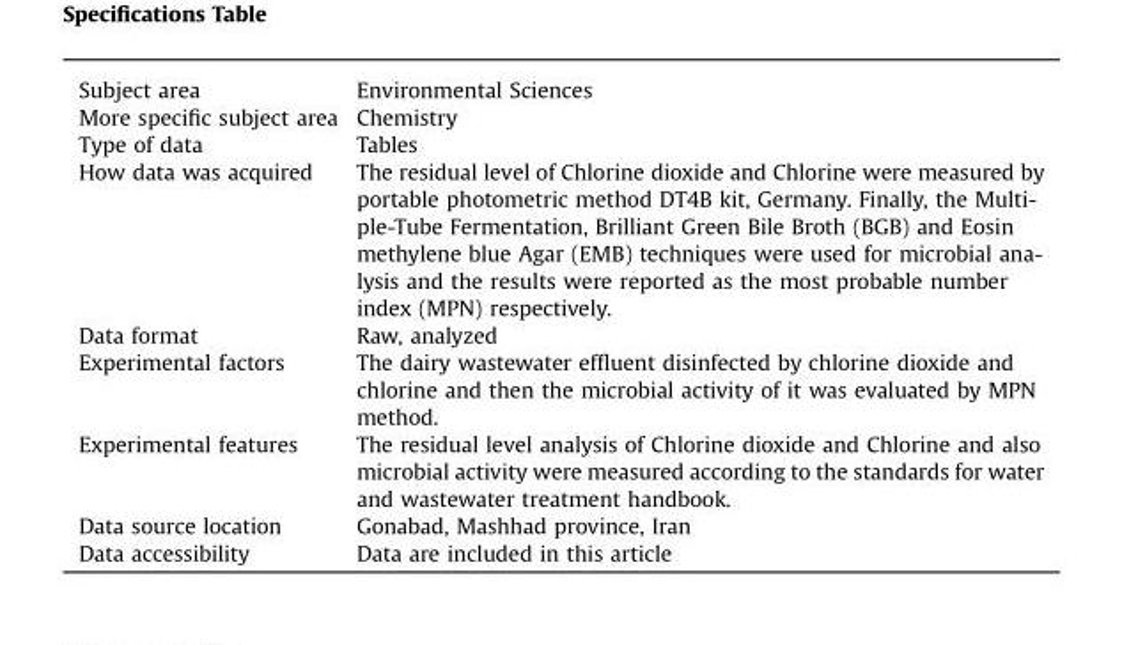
<table><tbody><tr><td>Subject area</td><td>Environmental Sciences</td></tr><tr><td>More specific subject area</td><td>Chemistry</td></tr><tr><td>Type of data</td><td>Tables</td></tr><tr><td>How data was acquired</td><td>The residual level of Chlorine dioxide and Chlorine were measured by portable photometric method DT4B kit, Germany. Finally, the Multi- ple-Tube Fermentation, Brilliant Green Bile Broth (BGB) and Eosin methylene blue Agar (EMB) techniques were used for microbial ana- lysis and the results were reported as the most probable number index (MPN) respectively.</td></tr><tr><td>Data format</td><td>Raw, analyzed</td></tr><tr><td>Experimental factors</td><td>The dairy wastewater effluent disinfected by chlorine dioxide and chlorine and then the microbial activity of it was evaluated by MPN method.</td></tr><tr><td>Experimental features</td><td>The residual level analysis of Chlorine dioxide and Chlorine and also microbial activity were measured according to the standards for water and wastewater treatment handbook.</td></tr><tr><td>Data source location</td><td>Gonabad, Mashhad province, Iran</td></tr><tr><td>Data accessibility</td><td>Data are included in this article</td></tr></tbody></table>